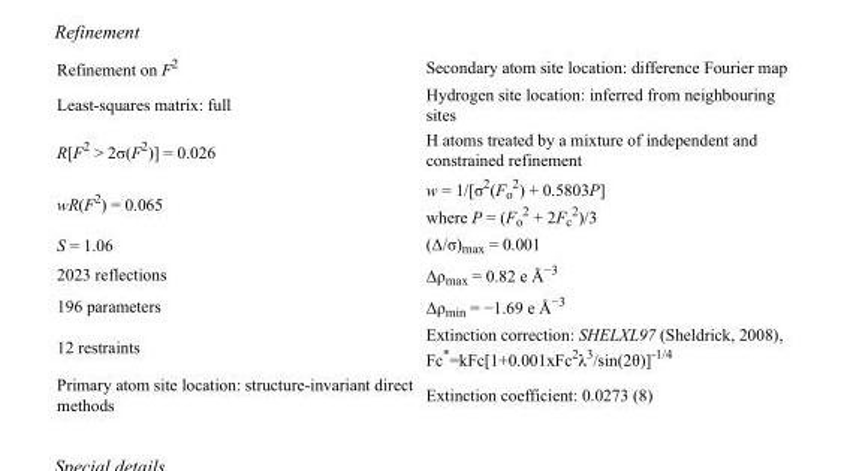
<table><tbody><tr><td>Refinement on F<sup>2</sup></td><td>Secondary atom site location: difference Fourier map</td></tr><tr><td>Least-squares matrix: full</td><td>Hydrogen site location: inferred from neighbouring sites</td></tr><tr><td>R[F<sup>2</sup> &gt; 2σ(F<sup>2</sup>)] = 0.026</td><td>H atoms treated by a mixture of independent and constrained refinement</td></tr><tr><td>wR(F<sup>2</sup>) = 0.065</td><td>w = 1/[σ<sup>2</sup>(F<sub>o</sub> <sup>2</sup>) + 0.5803P] where P = (F<sub>o</sub> <sup>2</sup> + 2F<sub>c</sub> <sup>2</sup>)/3</td></tr><tr><td>S = 1.06</td><td>(Δ/σ)<sub>max</sub> = 0.001</td></tr><tr><td>2023 reflections</td><td>Δρ<sub>max</sub> = 0.82 e Å<sup>−3</sup></td></tr><tr><td>196 parameters</td><td>Δρ<sub>min</sub> = −1.69 e Å<sup>−3</sup></td></tr><tr><td>12 restraints</td><td>Extinction correction: SHELXL97 (Sheldrick, 2008), Fc*=kFc[1+0.001xFc<sup>2</sup>λ<sup>3</sup>/sin(2θ)]<sup>-1/4</sup></td></tr><tr><td>Primary atom site location: structure-invariant direct methods</td><td>Extinction coefficient: 0.0273 (8)</td></tr></tbody></table>